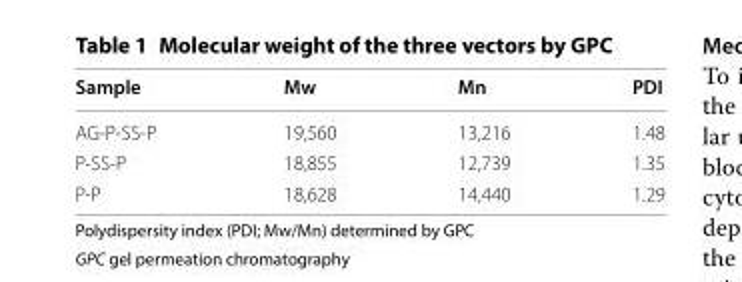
<table><thead><tr><td>Sample</td><td>Mw</td><td>Mn</td><td>PDI</td></tr></thead><tbody><tr><td>AG-P-SS-P</td><td>19,560</td><td>13,216</td><td>1.48</td></tr><tr><td>P-SS-P</td><td>18,855</td><td>12,739</td><td>1.35</td></tr><tr><td>P-P</td><td>18,628</td><td>14,440</td><td>1.29</td></tr></tbody></table>